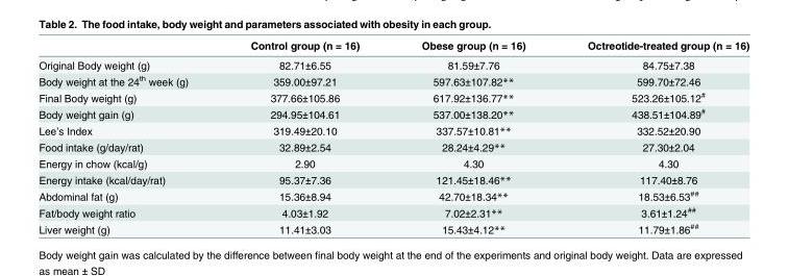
<table><thead><tr><td></td><td>Control group (n = 16)</td><td>Obese group (n = 16)</td><td>Octreotide-treated group (n = 16)</td></tr></thead><tbody><tr><td>Original Body weight (g)</td><td>82.71±6.55</td><td>81.59±7.76</td><td>84.75±7.38</td></tr><tr><td>Body weight at the 24<sup>th</sup> week (g)</td><td>359.00±97.21</td><td>597.63±107.82**</td><td>599.70±72.46</td></tr><tr><td>Final Body weight (g)</td><td>377.66±105.86</td><td>617.92±136.77**</td><td>523.26±105.12<sup>#</sup></td></tr><tr><td>Body weight gain (g)</td><td>294.95±104.61</td><td>537.00±138.20**</td><td>438.51±104.89<sup>#</sup></td></tr><tr><td>Lee’s Index</td><td>319.49±20.10</td><td>337.57±10.81**</td><td>332.52±20.90</td></tr><tr><td>Food intake (g/day/rat)</td><td>32.89±2.54</td><td>28.24±4.29**</td><td>27.30±2.04</td></tr><tr><td>Energy in chow (kcal/g)</td><td>2.90</td><td>4.30</td><td>4.30</td></tr><tr><td>Energy intake (kcal/day/rat)</td><td>95.37±7.36</td><td>121.45±18.46**</td><td>117.40±8.76</td></tr><tr><td>Abdominal fat (g)</td><td>15.36±8.94</td><td>42.70±18.34**</td><td>18.53±6.53<sup>##</sup></td></tr><tr><td>Fat/body weight ratio</td><td>4.03±1.92</td><td>7.02±2.31**</td><td>3.61±1.24<sup>##</sup></td></tr><tr><td>Liver weight (g)</td><td>11.41±3.03</td><td>15.43±4.12**</td><td>11.79±1.86<sup>##</sup></td></tr></tbody></table>